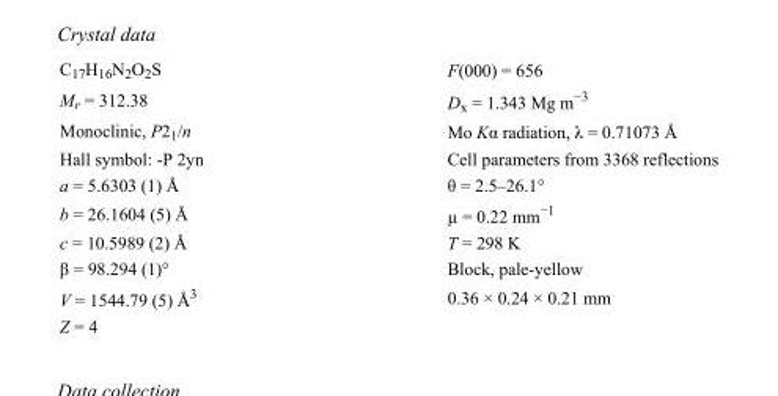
<table><tbody><tr><td>C<sub>17</sub>H<sub>16</sub>N<sub>2</sub>O<sub>2</sub>S</td><td>F(000) = 656</td></tr><tr><td>M<sub>r</sub> = 312.38</td><td>D<sub>x</sub> = 1.343 Mg m<sup>−3</sup></td></tr><tr><td>Monoclinic, P2<sub>1</sub>/n</td><td>Mo Kα radiation, λ = 0.71073 Å</td></tr><tr><td>Hall symbol: -P 2yn</td><td>Cell parameters from 3368 reflections</td></tr><tr><td>a = 5.6303 (1) Å</td><td>θ = 2.5–26.1°</td></tr><tr><td>b = 26.1604 (5) Å</td><td>µ = 0.22 mm<sup>−1</sup></td></tr><tr><td>c = 10.5989 (2) Å</td><td>T = 298 K</td></tr><tr><td>β = 98.294 (1)°</td><td>Block, pale-yellow</td></tr><tr><td>V = 1544.79 (5) Å<sup>3</sup></td><td>0.36 × 0.24 × 0.21 mm</td></tr><tr><td>Z = 4</td><td></td></tr></tbody></table>